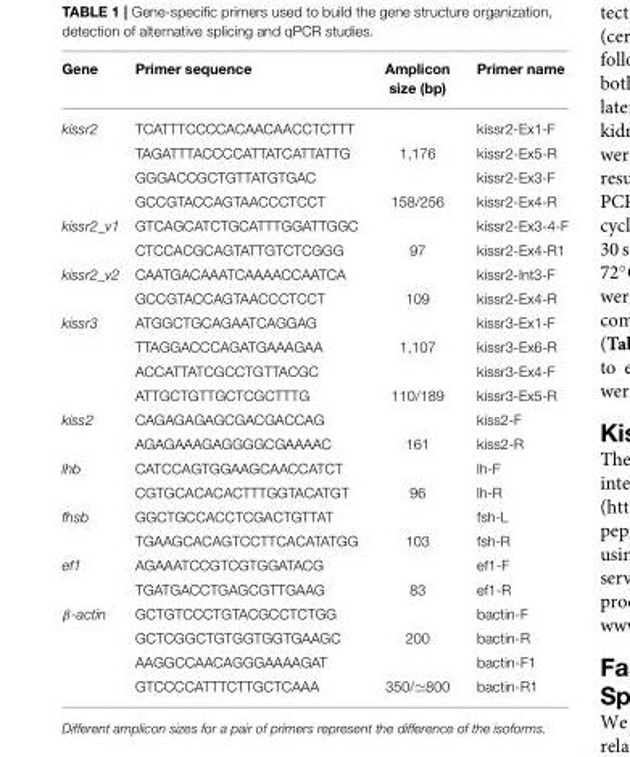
<table><thead><tr><td>Gene</td><td>Primer sequence</td><td>Amplicon size (bp)</td><td>Primer name</td></tr></thead><tbody><tr><td rowspan="4">kissr2</td><td>TCATTTCCCCACAACAACCTCTTT</td><td></td><td>kissr2-Ex1-F</td></tr><tr><td>TAGATTTACCCCATTATCATTATTG</td><td>1,176</td><td>kissr2-Ex5-R</td></tr><tr><td>GGGACCGCTGTTATGTGAC</td><td></td><td>kissr2-Ex3-F</td></tr><tr><td>GCCGTACCAGTAACCCTCCT</td><td>158/256</td><td>kissr2-Ex4-R</td></tr><tr><td rowspan="2">kissr2_v1</td><td>GTCAGCATCTGCATTTGGATTGGC</td><td></td><td>kissr2-Ex3-4-F</td></tr><tr><td>CTCCACGCAGTATTGTCTCGGG</td><td>97</td><td>kissr2-Ex4-R1</td></tr><tr><td rowspan="2">kissr2_v2</td><td>CAATGACAAATCAAAACCAATCA</td><td></td><td>kissr2-Int3-F</td></tr><tr><td>GCCGTACCAGTAACCCTCCT</td><td>109</td><td>kissr2-Ex4-R</td></tr><tr><td rowspan="4">kissr3</td><td>ATGGCTGCAGAATCAGGAG</td><td></td><td>kissr3-Ex1-F</td></tr><tr><td>TTAGGACCCAGATGAAAGAA</td><td>1,107</td><td>kissr3-Ex6-R</td></tr><tr><td>ACCATTATCGCCTGTTACGC</td><td></td><td>kissr3-Ex4-F</td></tr><tr><td>ATTGCTGTTGCTCGCTTTG</td><td>110/189</td><td>kissr3-Ex5-R</td></tr><tr><td rowspan="2">kiss2</td><td>CAGAGAGAGCGACGACCAG</td><td></td><td>kiss2-F</td></tr><tr><td>AGAGAAAGAGGGGCGAAAAC</td><td>161</td><td>kiss2-R</td></tr><tr><td rowspan="2">lhb</td><td>CATCCAGTGGAAGCAACCATCT</td><td></td><td>lh-F</td></tr><tr><td>CGTGCACACACTTTGGTACATGT</td><td>96</td><td>lh-R</td></tr><tr><td rowspan="2">fhsb</td><td>GGCTGCCACCTCGACTGTTAT</td><td></td><td>fsh-L</td></tr><tr><td>TGAAGCACAGTCCTTCACATATGG</td><td>103</td><td>fsh-R</td></tr><tr><td rowspan="2">ef1</td><td>AGAAATCCGTCGTGGATACG</td><td></td><td>ef1-F</td></tr><tr><td>TGATGACCTGAGCGTTGAAG</td><td>83</td><td>ef1-R</td></tr><tr><td rowspan="4">β-actin</td><td>GCTGTCCCTGTACGCCTCTGG</td><td></td><td>bactin-F</td></tr><tr><td>GCTCGGCTGTGGTGGTGAAGC</td><td>200</td><td>bactin-R</td></tr><tr><td>AAGGCCAACAGGGAAAAGAT</td><td></td><td>bactin-F1</td></tr><tr><td>GTCCCCATTTCTTGCTCAAA</td><td>350/≃800</td><td>bactin-R1</td></tr></tbody></table>